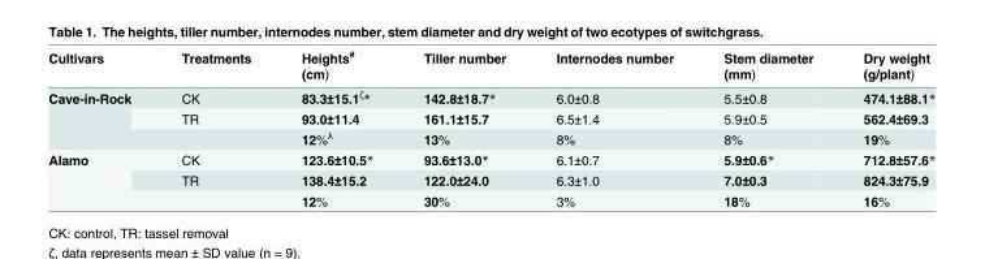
<table><thead><tr><td rowspan="2">Cultivars</td><td rowspan="2">Treatments</td><td rowspan="2">Heights<sup>#</sup> (cm)</td><td rowspan="2">Tiller number</td><td rowspan="2">Internodes number</td><td rowspan="2">Stem diameter (mm)</td><td rowspan="2">Dry weight (g/plant)</td></tr><tr></tr></thead><tbody><tr><td rowspan="3">Cave-in-Rock</td><td>CK</td><td>83.3±15.1<sup>ζ</sup>*</td><td>142.8±18.7*</td><td>6.0±0.8</td><td>5.5±0.8</td><td>474.1±88.1*</td></tr><tr><td>TR</td><td>93.0±11.4</td><td>161.1±15.7</td><td>6.5±1.4</td><td>5.9±0.5</td><td>562.4±69.3</td></tr><tr><td></td><td>12%<sup>λ</sup></td><td>13%</td><td>8%</td><td>8%</td><td>19%</td></tr><tr><td rowspan="3">Alamo</td><td>CK</td><td>123.6±10.5*</td><td>93.6±13.0*</td><td>6.1±0.7</td><td>5.9±0.6*</td><td>712.8±57.6*</td></tr><tr><td>TR</td><td>138.4±15.2</td><td>122.0±24.0</td><td>6.3±1.0</td><td>7.0±0.3</td><td>824.3±75.9</td></tr><tr><td></td><td>12%</td><td>30%</td><td>3%</td><td>18%</td><td>16%</td></tr></tbody></table>